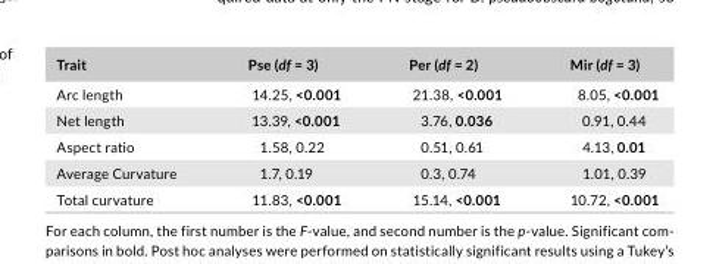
<table><thead><tr><td>Trait</td><td>Pse (df = 3)</td><td>Per (df = 2)</td><td>Mir (df = 3)</td></tr></thead><tbody><tr><td>Arc length</td><td>14.25, &lt;0.001</td><td>21.38, &lt;0.001</td><td>8.05, &lt;0.001</td></tr><tr><td>Net length</td><td>13.39, &lt;0.001</td><td>3.76, 0.036</td><td>0.91, 0.44</td></tr><tr><td>Aspect ratio</td><td>1.58, 0.22</td><td>0.51, 0.61</td><td>4.13, 0.01</td></tr><tr><td>Average Curvature</td><td>1.7, 0.19</td><td>0.3, 0.74</td><td>1.01, 0.39</td></tr><tr><td>Total curvature</td><td>11.83, &lt;0.001</td><td>15.14, &lt;0.001</td><td>10.72, &lt;0.001</td></tr></tbody></table>